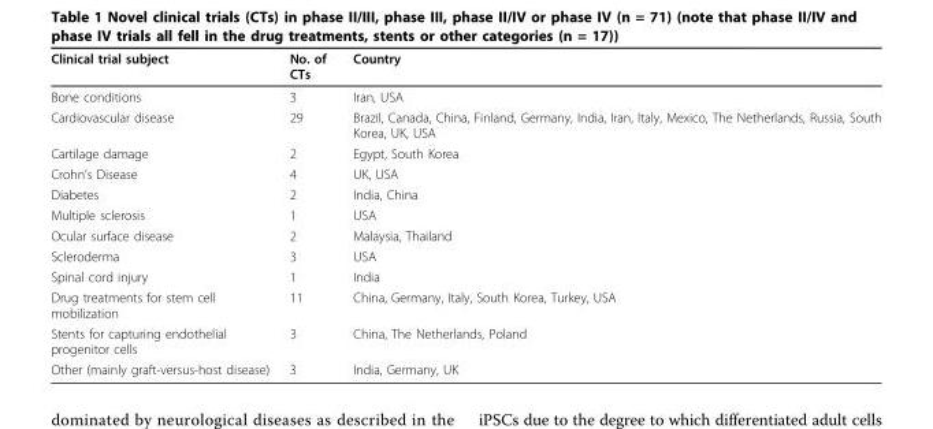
<table><thead><tr><td>Clinical trial subject</td><td>No. of CTs</td><td>Country</td></tr></thead><tbody><tr><td>Bone conditions</td><td>3</td><td>Iran, USA</td></tr><tr><td>Cardiovascular disease</td><td>29</td><td>Brazil, Canada, China, Finland, Germany, India, Iran, Italy, Mexico, The Netherlands, Russia, South Korea, UK, USA</td></tr><tr><td>Cartilage damage</td><td>2</td><td>Egypt, South Korea</td></tr><tr><td>Crohn’s Disease</td><td>4</td><td>UK, USA</td></tr><tr><td>Diabetes</td><td>2</td><td>India, China</td></tr><tr><td>Multiple sclerosis</td><td>1</td><td>USA</td></tr><tr><td>Ocular surface disease</td><td>2</td><td>Malaysia, Thailand</td></tr><tr><td>Scleroderma</td><td>3</td><td>USA</td></tr><tr><td>Spinal cord injury</td><td>1</td><td>India</td></tr><tr><td>Drug treatments for stem cell mobilization</td><td>11</td><td>China, Germany, Italy, South Korea, Turkey, USA</td></tr><tr><td>Stents for capturing endothelial progenitor cells</td><td>3</td><td>China, The Netherlands, Poland</td></tr><tr><td>Other (mainly graft-versus-host disease)</td><td>3</td><td>India, Germany, UK</td></tr></tbody></table>